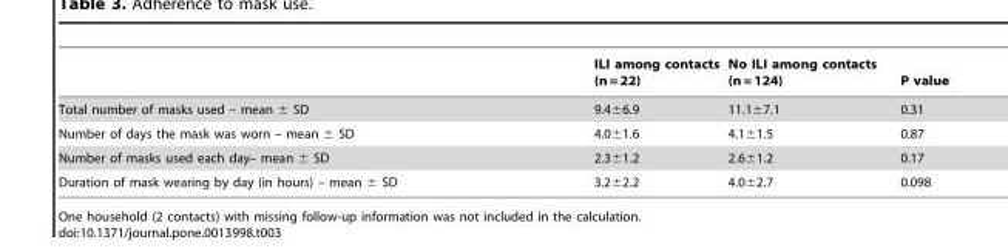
<table><thead><tr><td></td><td>ILI among contacts (n = 22)</td><td>No ILI among contacts (n = 124)</td><td>P value</td></tr></thead><tbody><tr><td>Total number of masks used – mean ± SD</td><td>9.4±6.9</td><td>11.1±7.1</td><td>0.31</td></tr><tr><td>Number of days the mask was worn – mean ± SD</td><td>4.0±1.6</td><td>4.1±1.5</td><td>0.87</td></tr><tr><td>Number of masks used each day– mean ± SD</td><td>2.3±1.2</td><td>2.6±1.2</td><td>0.17</td></tr><tr><td>Duration of mask wearing by day (in hours) – mean ± SD</td><td>3.2±2.2</td><td>4.0±2.7</td><td>0.098</td></tr></tbody></table>